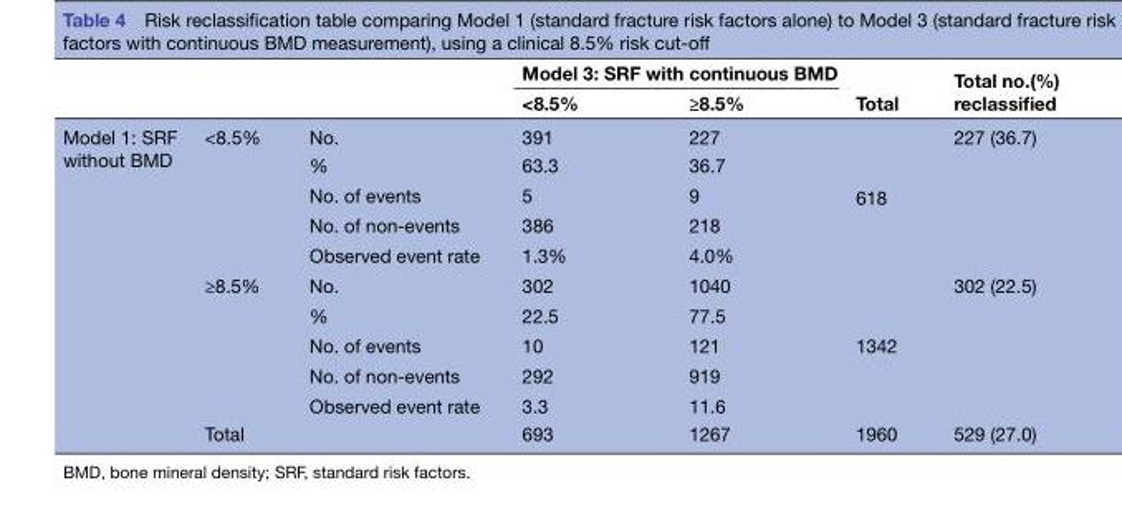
<table><thead><tr><td rowspan="2"></td><td rowspan="2"></td><td rowspan="2"></td><td colspan="2">Model 3: SRF with continuous BMD</td><td rowspan="2">Total</td><td rowspan="2">Total no.(%) reclassified</td></tr><tr><td>&lt;8.5%</td><td>≥8.5%</td></tr></thead><tbody><tr><td rowspan="11">Model 1: SRF without BMD</td><td rowspan="5">&lt;8.5%</td><td>No.</td><td>391</td><td>227</td><td rowspan="5">618</td><td rowspan="5">227 (36.7)</td></tr><tr><td>%</td><td>63.3</td><td>36.7</td></tr><tr><td>No. of events</td><td>5</td><td>9</td></tr><tr><td>No. of non-events</td><td>386</td><td>218</td></tr><tr><td>Observed event rate</td><td>1.3%</td><td>4.0%</td></tr><tr><td rowspan="5">≥8.5%</td><td>No.</td><td>302</td><td>1040</td><td rowspan="5">1342</td><td rowspan="5">302 (22.5)</td></tr><tr><td>%</td><td>22.5</td><td>77.5</td></tr><tr><td>No. of events</td><td>10</td><td>121</td></tr><tr><td>No. of non-events</td><td>292</td><td>919</td></tr><tr><td>Observed event rate</td><td>3.3</td><td>11.6</td></tr><tr><td>Total</td><td></td><td>693</td><td>1267</td><td>1960</td><td>529 (27.0)</td></tr></tbody></table>